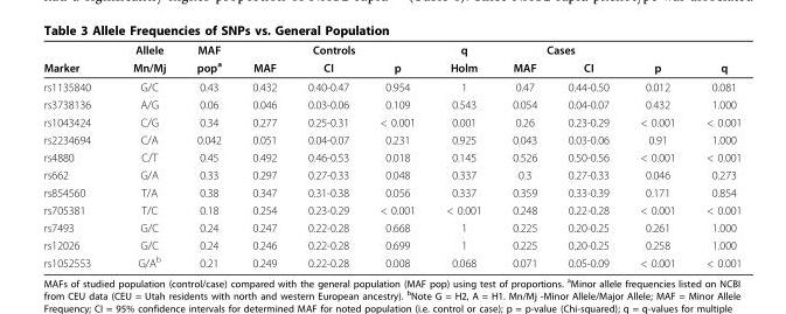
<table><thead><tr><td rowspan="2">Marker</td><td rowspan="2">Allele Mn/Mj</td><td rowspan="2">MAF popa</td><td colspan="3">Controls</td><td rowspan="2">q Holm</td><td colspan="2">Cases</td><td rowspan="2">p</td><td rowspan="2">q</td></tr><tr><td>MAF</td><td>CI</td><td>p</td><td>MAF</td><td>CI</td></tr></thead><tbody><tr><td>rs1135840</td><td>G/C</td><td>0.43</td><td>0.432</td><td>0.40-0.47</td><td>0.954</td><td>1</td><td>0.47</td><td>0.44-0.50</td><td>0.012</td><td>0.081</td></tr><tr><td>rs3738136</td><td>A/G</td><td>0.06</td><td>0.046</td><td>0.03-0.06</td><td>0.109</td><td>0.543</td><td>0.054</td><td>0.04-0.07</td><td>0.432</td><td>1.000</td></tr><tr><td>rs1043424</td><td>C/G</td><td>0.34</td><td>0.277</td><td>0.25-0.31</td><td>&lt; 0.001</td><td>0.001</td><td>0.26</td><td>0.23-0.29</td><td>&lt; 0.001</td><td>&lt; 0.001</td></tr><tr><td>rs2234694</td><td>C/A</td><td>0.042</td><td>0.051</td><td>0.04-0.07</td><td>0.231</td><td>0.925</td><td>0.043</td><td>0.03-0.06</td><td>0.91</td><td>1.000</td></tr><tr><td>rs4880</td><td>C/T</td><td>0.45</td><td>0.492</td><td>0.46-0.53</td><td>0.018</td><td>0.145</td><td>0.526</td><td>0.50-0.56</td><td>&lt; 0.001</td><td>&lt; 0.001</td></tr><tr><td>rs662</td><td>G/A</td><td>0.33</td><td>0.297</td><td>0.27-0.33</td><td>0.048</td><td>0.337</td><td>0.3</td><td>0.27-0.33</td><td>0.046</td><td>0.273</td></tr><tr><td>rs854560</td><td>T/A</td><td>0.38</td><td>0.347</td><td>0.31-0.38</td><td>0.056</td><td>0.337</td><td>0.359</td><td>0.33-0.39</td><td>0.171</td><td>0.854</td></tr><tr><td>rs705381</td><td>T/C</td><td>0.18</td><td>0.254</td><td>0.23-0.29</td><td>&lt; 0.001</td><td>&lt; 0.001</td><td>0.248</td><td>0.22-0.28</td><td>&lt; 0.001</td><td>&lt; 0.001</td></tr><tr><td>rs7493</td><td>G/C</td><td>0.24</td><td>0.247</td><td>0.22-0.28</td><td>0.668</td><td>1</td><td>0.225</td><td>0.20-0.25</td><td>0.261</td><td>1.000</td></tr><tr><td>rs12026</td><td>G/C</td><td>0.24</td><td>0.246</td><td>0.22-0.28</td><td>0.699</td><td>1</td><td>0.225</td><td>0.20-0.25</td><td>0.258</td><td>1.000</td></tr><tr><td>rs1052553</td><td>G/A<sup>b</sup></td><td>0.21</td><td>0.249</td><td>0.22-0.28</td><td>0.008</td><td>0.068</td><td>0.071</td><td>0.05-0.09</td><td>&lt; 0.001</td><td>&lt; 0.001</td></tr></tbody></table>